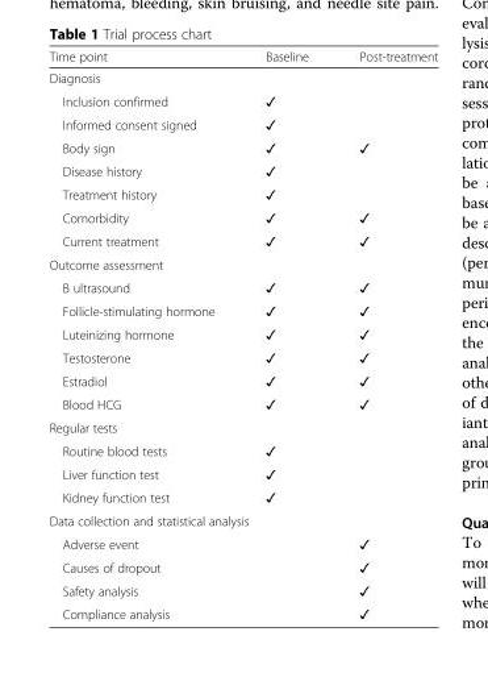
<table><thead><tr><td>Time point</td><td>Baseline</td><td>Post-treatment</td></tr></thead><tbody><tr><td colspan="3">Diagnosis</td></tr><tr><td>Inclusion confirmed</td><td>✓</td><td></td></tr><tr><td>Informed consent signed</td><td>✓</td><td></td></tr><tr><td>Body sign</td><td>✓</td><td>✓</td></tr><tr><td>Disease history</td><td>✓</td><td></td></tr><tr><td>Treatment history</td><td>✓</td><td></td></tr><tr><td>Comorbidity</td><td>✓</td><td>✓</td></tr><tr><td>Current treatment</td><td>✓</td><td>✓</td></tr><tr><td colspan="3">Outcome assessment</td></tr><tr><td>B ultrasound</td><td>✓</td><td>✓</td></tr><tr><td>Follicle-stimulating hormone</td><td>✓</td><td>✓</td></tr><tr><td>Luteinizing hormone</td><td>✓</td><td>✓</td></tr><tr><td>Testosterone</td><td>✓</td><td>✓</td></tr><tr><td>Estradiol</td><td>✓</td><td>✓</td></tr><tr><td>Blood HCG</td><td>✓</td><td>✓</td></tr><tr><td colspan="3">Regular tests</td></tr><tr><td>Routine blood tests</td><td>✓</td><td></td></tr><tr><td>Liver function test</td><td>✓</td><td></td></tr><tr><td>Kidney function test</td><td>✓</td><td></td></tr><tr><td colspan="3">Data collection and statistical analysis</td></tr><tr><td>Adverse event</td><td></td><td>✓</td></tr><tr><td>Causes of dropout</td><td></td><td>✓</td></tr><tr><td>Safety analysis</td><td></td><td>✓</td></tr><tr><td>Compliance analysis</td><td></td><td>✓</td></tr></tbody></table>